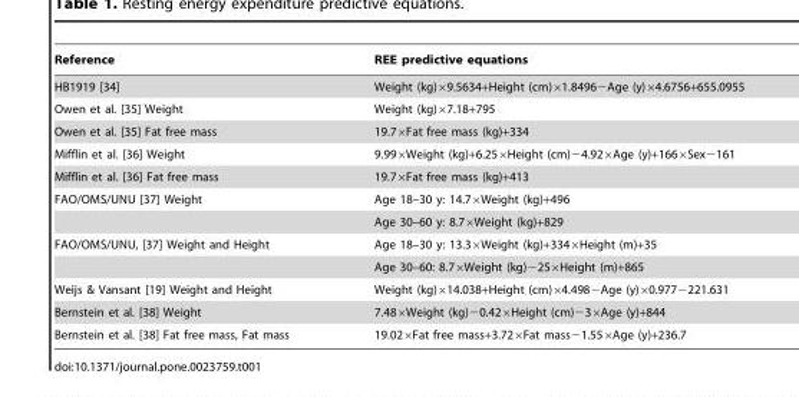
<table><thead><tr><td>Reference</td><td>REE predictive equations</td></tr></thead><tbody><tr><td>HB1919 [34]</td><td>Weight (kg)×9.5634+Height (cm)×1.8496−Age (y)×4.6756+655.0955</td></tr><tr><td>Owen et al. [35] Weight</td><td>Weight (kg)×7.18+795</td></tr><tr><td>Owen et al. [35] Fat free mass</td><td>19.7×Fat free mass (kg)+334</td></tr><tr><td>Mifflin et al. [36] Weight</td><td>9.99×Weight (kg)+6.25×Height (cm)−4.92×Age (y)+166×Sex−161</td></tr><tr><td>Mifflin et al. [36] Fat free mass</td><td>19.7×Fat free mass (kg)+413</td></tr><tr><td rowspan="2">FAO/OMS/UNU [37] Weight</td><td>Age 18–30 y: 14.7×Weight (kg)+496</td></tr><tr><td>Age 30–60 y: 8.7×Weight (kg)+829</td></tr><tr><td rowspan="2">FAO/OMS/UNU, [37] Weight and Height</td><td>Age 18–30 y: 13.3×Weight (kg)+334×Height (m)+35</td></tr><tr><td>Age 30–60: 8.7×Weight (kg)−25×Height (m)+865</td></tr><tr><td>Weijs &amp; Vansant [19] Weight and Height</td><td>Weight (kg)×14.038+Height (cm)×4.498−Age (y)×0.977−221.631</td></tr><tr><td>Bernstein et al. [38] Weight</td><td>7.48×Weight (kg)−0.42×Height (cm)−3×Age (y)+844</td></tr><tr><td>Bernstein et al. [38] Fat free mass, Fat mass</td><td>19.02×Fat free mass+3.72×Fat mass−1.55×Age (y)+236.7</td></tr></tbody></table>